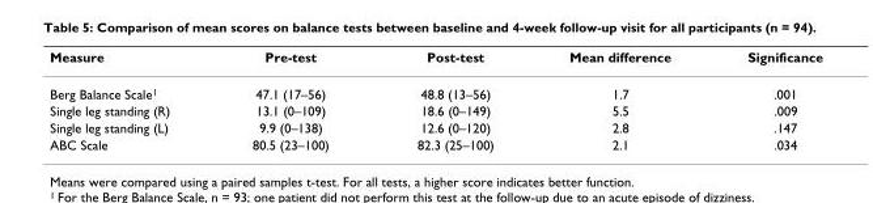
<table><thead><tr><td>Measure</td><td>Pre-test</td><td>Post-test</td><td>Mean difference</td><td>Significance</td></tr></thead><tbody><tr><td>Berg Balance Scale<sup>1</sup></td><td>47.1 (17–56)</td><td>48.8 (13–56)</td><td>1.7</td><td>.001</td></tr><tr><td>Single leg standing (R)</td><td>13.1 (0–109)</td><td>18.6 (0–149)</td><td>5.5</td><td>.009</td></tr><tr><td>Single leg standing (L)</td><td>9.9 (0–138)</td><td>12.6 (0–120)</td><td>2.8</td><td>.147</td></tr><tr><td>ABC Scale</td><td>80.5 (23–100)</td><td>82.3 (25–100)</td><td>2.1</td><td>.034</td></tr></tbody></table>